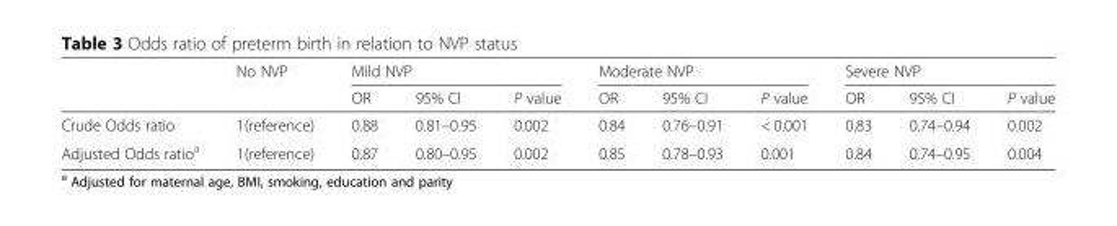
<table><thead><tr><td rowspan="2"></td><td rowspan="2">No NVP</td><td colspan="3">Mild NVP</td><td colspan="3">Moderate NVP</td><td colspan="3">Severe NVP</td></tr><tr><td>OR</td><td>95% CI</td><td>P value</td><td>OR</td><td>95% CI</td><td>P value</td><td>OR</td><td>95% CI</td><td>P value</td></tr></thead><tbody><tr><td>Crude Odds ratio</td><td>1(reference)</td><td>0.88</td><td>0.81–0.95</td><td>0.002</td><td>0.84</td><td>0.76–0.91</td><td>&lt; 0.001</td><td>0.83</td><td>0.74–0.94</td><td>0.002</td></tr><tr><td>Adjusted Odds ratio<sup>a</sup></td><td>1(reference)</td><td>0.87</td><td>0.80–0.95</td><td>0.002</td><td>0.85</td><td>0.78–0.93</td><td>0.001</td><td>0.84</td><td>0.74–0.95</td><td>0.004</td></tr></tbody></table>